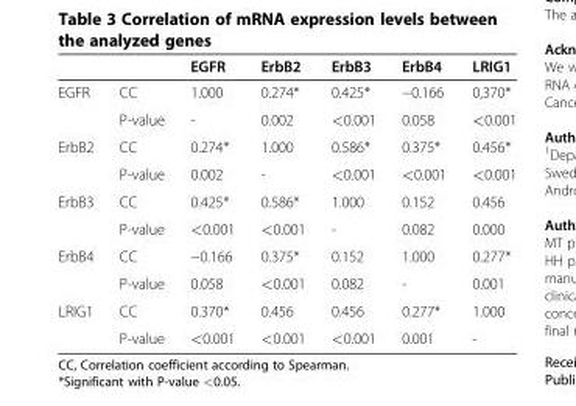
<table><thead><tr><td></td><td></td><td>EGFR</td><td>ErbB2</td><td>ErbB3</td><td>ErbB4</td><td>LRIG1</td></tr></thead><tbody><tr><td rowspan="2">EGFR</td><td>CC</td><td>1.000</td><td>0.274*</td><td>0.425*</td><td>−0.166</td><td>0,370*</td></tr><tr><td>P-value</td><td>-</td><td>0.002</td><td>&lt;0.001</td><td>0.058</td><td>&lt;0.001</td></tr><tr><td rowspan="2">ErbB2</td><td>CC</td><td>0.274*</td><td>1.000</td><td>0.586*</td><td>0.375*</td><td>0.456*</td></tr><tr><td>P-value</td><td>0.002</td><td>-</td><td>&lt;0.001</td><td>&lt;0.001</td><td>&lt;0.001</td></tr><tr><td rowspan="2">ErbB3</td><td>CC</td><td>0.425*</td><td>0.586*</td><td>1.000</td><td>0.152</td><td>0.456</td></tr><tr><td>P-value</td><td>&lt;0.001</td><td>&lt;0.001</td><td>-</td><td>0.082</td><td>0.000</td></tr><tr><td rowspan="2">ErbB4</td><td>CC</td><td>−0.166</td><td>0.375*</td><td>0.152</td><td>1.000</td><td>0.277*</td></tr><tr><td>P-value</td><td>0.058</td><td>&lt;0.001</td><td>0.082</td><td>-</td><td>0.001</td></tr><tr><td rowspan="2">LRIG1</td><td>CC</td><td>0.370*</td><td>0.456</td><td>0.456</td><td>0.277*</td><td>1.000</td></tr><tr><td>P-value</td><td>&lt;0.001</td><td>&lt;0.001</td><td>&lt;0.001</td><td>0.001</td><td>-</td></tr></tbody></table>